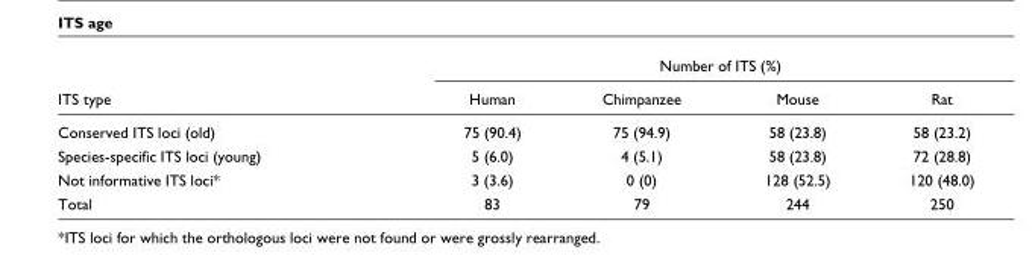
<table><thead><tr><td rowspan="2">ITS type</td><td colspan="4">Number of ITS (%)</td></tr><tr><td>Human</td><td>Chimpanzee</td><td>Mouse</td><td>Rat</td></tr></thead><tbody><tr><td>Conserved ITS loci (old)</td><td>75 (90.4)</td><td>75 (94.9)</td><td>58 (23.8)</td><td>58 (23.2)</td></tr><tr><td>Species-specific ITS loci (young)</td><td>5 (6.0)</td><td>4 (5.1)</td><td>58 (23.8)</td><td>72 (28.8)</td></tr><tr><td>Not informative ITS loci*</td><td>3 (3.6)</td><td>0 (0)</td><td>128 (52.5)</td><td>120 (48.0)</td></tr><tr><td>Total</td><td>83</td><td>79</td><td>244</td><td>250</td></tr></tbody></table>